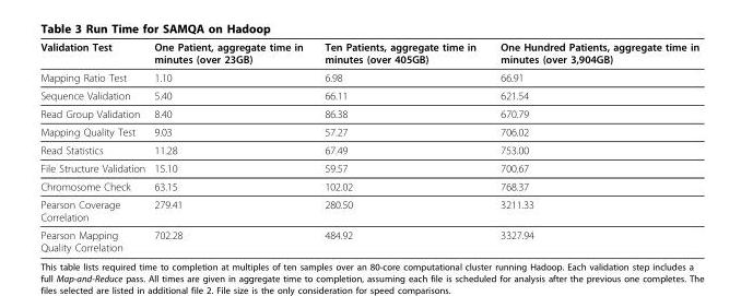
<table><thead><tr><td>Validation Test</td><td>One Patient, aggregate time in minutes (over 23GB)</td><td>Ten Patients, aggregate time in minutes (over 405GB)</td><td>One Hundred Patients, aggregate time in minutes (over 3,904GB)</td></tr></thead><tbody><tr><td>Mapping Ratio Test</td><td>1.10</td><td>6.98</td><td>66.91</td></tr><tr><td>Sequence Validation</td><td>5.40</td><td>66.11</td><td>621.54</td></tr><tr><td>Read Group Validation</td><td>8.40</td><td>86.38</td><td>670.79</td></tr><tr><td>Mapping Quality Test</td><td>9.03</td><td>57.27</td><td>706.02</td></tr><tr><td>Read Statistics</td><td>11.28</td><td>67.49</td><td>753.00</td></tr><tr><td>File Structure Validation</td><td>15.10</td><td>59.57</td><td>700.67</td></tr><tr><td>Chromosome Check</td><td>63.15</td><td>102.02</td><td>768.37</td></tr><tr><td>Pearson Coverage Correlation</td><td>279.41</td><td>280.50</td><td>3211.33</td></tr><tr><td>Pearson Mapping Quality Correlation</td><td>702.28</td><td>484.92</td><td>3327.94</td></tr></tbody></table>